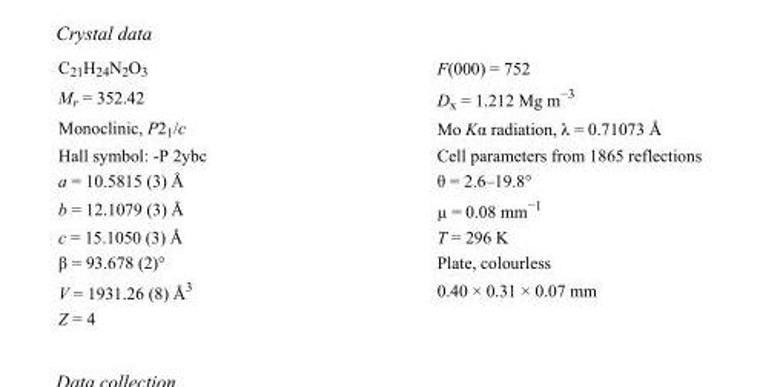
<table><tbody><tr><td>C<sub>21</sub>H<sub>24</sub>N<sub>2</sub>O<sub>3</sub></td><td>F(000) = 752</td></tr><tr><td>M<sub>r</sub> = 352.42</td><td>D<sub>x</sub> = 1.212 Mg m<sup>−3</sup></td></tr><tr><td>Monoclinic, P2<sub>1</sub>/c</td><td>Mo Kα radiation, λ = 0.71073 Å</td></tr><tr><td>Hall symbol: -P 2ybc</td><td>Cell parameters from 1865 reflections</td></tr><tr><td>a = 10.5815 (3) Å</td><td>θ = 2.6–19.8°</td></tr><tr><td>b = 12.1079 (3) Å</td><td>µ = 0.08 mm<sup>−1</sup></td></tr><tr><td>c = 15.1050 (3) Å</td><td>T = 296 K</td></tr><tr><td>β = 93.678 (2)°</td><td>Plate, colourless</td></tr><tr><td>V = 1931.26 (8) Å<sup>3</sup></td><td>0.40 × 0.31 × 0.07 mm</td></tr><tr><td>Z = 4</td><td></td></tr></tbody></table>